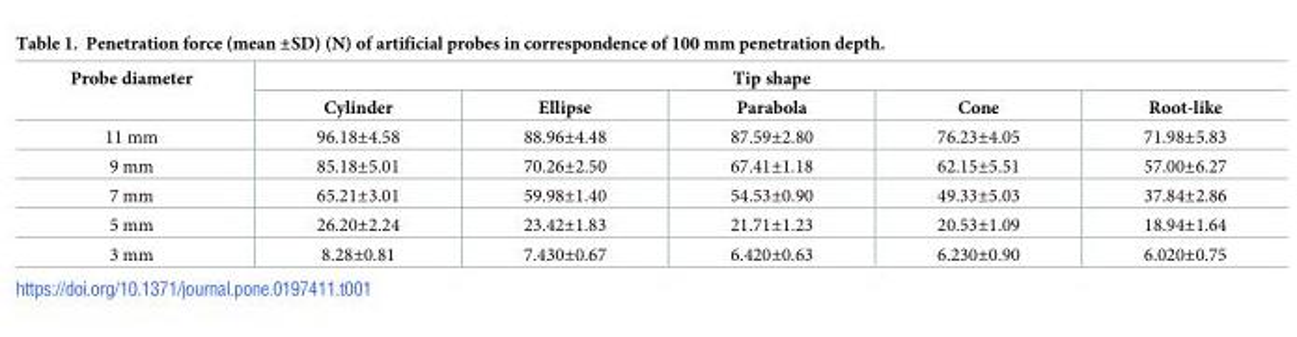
<table><thead><tr><td rowspan="2">Probe diameter</td><td colspan="5">Tip shape</td></tr><tr><td>Cylinder</td><td>Ellipse</td><td>Parabola</td><td>Cone</td><td>Root-like</td></tr></thead><tbody><tr><td>11 mm</td><td>96.18±4.58</td><td>88.96±4.48</td><td>87.59±2.80</td><td>76.23±4.05</td><td>71.98±5.83</td></tr><tr><td>9 mm</td><td>85.18±5.01</td><td>70.26±2.50</td><td>67.41±1.18</td><td>62.15±5.51</td><td>57.00±6.27</td></tr><tr><td>7 mm</td><td>65.21±3.01</td><td>59.98±1.40</td><td>54.53±0.90</td><td>49.33±5.03</td><td>37.84±2.86</td></tr><tr><td>5 mm</td><td>26.20±2.24</td><td>23.42±1.83</td><td>21.71±1.23</td><td>20.53±1.09</td><td>18.94±1.64</td></tr><tr><td>3 mm</td><td>8.28±0.81</td><td>7.430±0.67</td><td>6.420±0.63</td><td>6.230±0.90</td><td>6.020±0.75</td></tr></tbody></table>